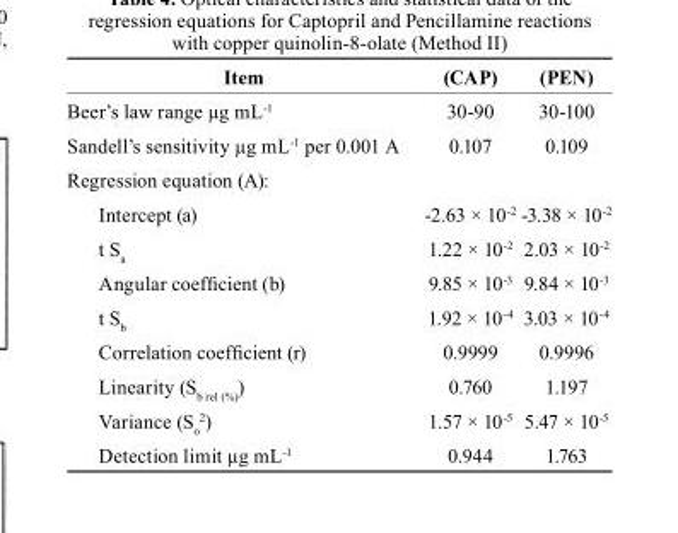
<table><thead><tr><td>Item</td><td>(cAP)</td><td>(PEN)</td></tr></thead><tbody><tr><td>Beer’s law range µg mL<sup>-1</sup></td><td>30-90</td><td>30-100</td></tr><tr><td>Sandell’s sensitivity µg mL<sup>-1</sup> per 0.001 A</td><td>0.107</td><td>0.109</td></tr><tr><td colspan="3">Regression equation (A):</td></tr><tr><td>Intercept (a)</td><td>-2.63 × 10<sup>-2</sup></td><td>-3.38 × 10<sup>-2</sup></td></tr><tr><td>t S<sub>a</sub></td><td>1.22 × 10<sup>-2</sup></td><td>2.03 × 10<sup>-2</sup></td></tr><tr><td>Angular coefficient (b)</td><td>9.85 × 10<sup>-3</sup></td><td>9.84 × 10<sup>-3</sup></td></tr><tr><td>t S<sub>b</sub></td><td>1.92 × 10<sup>-4</sup></td><td>3.03 × 10<sup>-4</sup></td></tr><tr><td>Correlation coefficient (r)</td><td>0.9999</td><td>0.9996</td></tr><tr><td>Linearity (S<sub>b rel (%)</sub>)</td><td>0.760</td><td>1.197</td></tr><tr><td>Variance (S<sub>o</sub> <sup>2</sup>)</td><td>1.57 × 10<sup>-5</sup></td><td>5.47 × 10<sup>-5</sup></td></tr><tr><td>Detection limit µg mL<sup>-1</sup></td><td>0.944</td><td>1.763</td></tr></tbody></table>